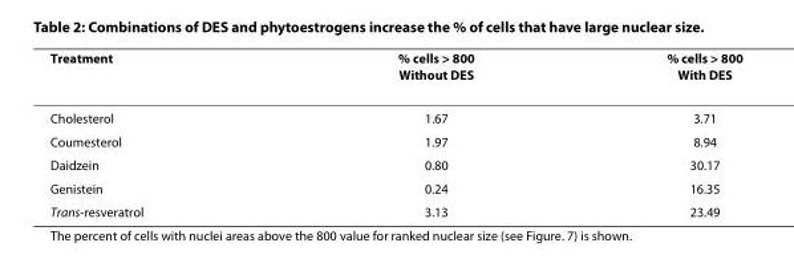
<table><thead><tr><td>Treatment</td><td>% cells &gt; 800 Without DES</td><td>% cells &gt; 800 With DES</td></tr></thead><tbody><tr><td>Cholesterol</td><td>1.67</td><td>3.71</td></tr><tr><td>Coumesterol</td><td>1.97</td><td>8.94</td></tr><tr><td>Daidzein</td><td>0.80</td><td>30.17</td></tr><tr><td>Genistein</td><td>0.24</td><td>16.35</td></tr><tr><td>Trans-resveratrol</td><td>3.13</td><td>23.49</td></tr></tbody></table>